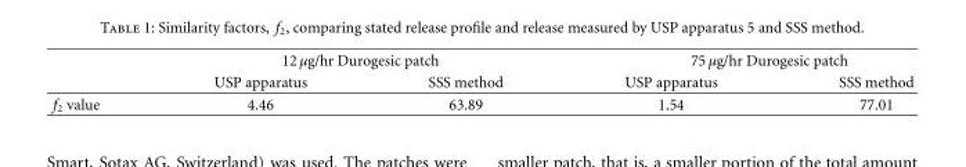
<table><thead><tr><td rowspan="2"></td><td colspan="2">12 µg/hr Durogesic patch</td><td colspan="2">75 µg/hr Durogesic patch</td></tr><tr><td>USP apparatus</td><td>SSS method</td><td>USP apparatus</td><td>SSS method</td></tr></thead><tbody><tr><td>f<sub>2</sub> value</td><td>4.46</td><td>63.89</td><td>1.54</td><td>77.01</td></tr></tbody></table>